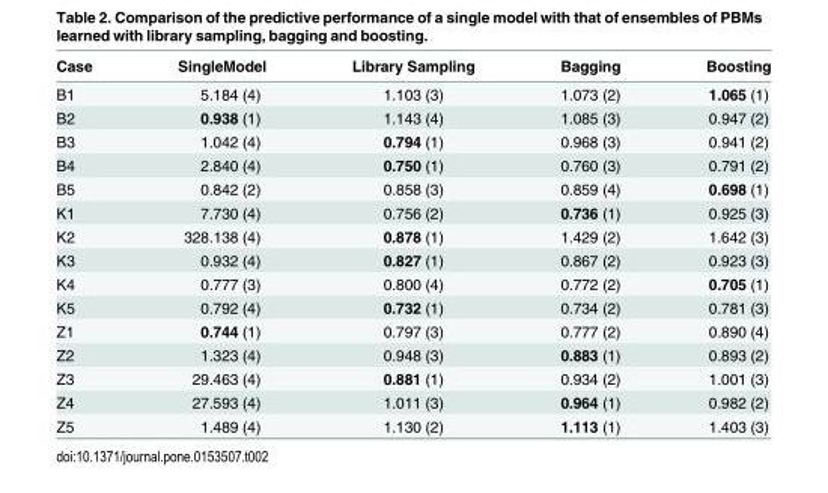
<table><thead><tr><td>Case</td><td>SingleModel</td><td>Library Sampling</td><td>Bagging</td><td>Boosting</td></tr></thead><tbody><tr><td>B1</td><td>5.184 (4)</td><td>1.103 (3)</td><td>1.073 (2)</td><td>1.065 (1)</td></tr><tr><td>B2</td><td>0.938 (1)</td><td>1.143 (4)</td><td>1.085 (3)</td><td>0.947 (2)</td></tr><tr><td>B3</td><td>1.042 (4)</td><td>0.794 (1)</td><td>0.968 (3)</td><td>0.941 (2)</td></tr><tr><td>B4</td><td>2.840 (4)</td><td>0.750 (1)</td><td>0.760 (3)</td><td>0.791 (2)</td></tr><tr><td>B5</td><td>0.842 (2)</td><td>0.858 (3)</td><td>0.859 (4)</td><td>0.698 (1)</td></tr><tr><td>K1</td><td>7.730 (4)</td><td>0.756 (2)</td><td>0.736 (1)</td><td>0.925 (3)</td></tr><tr><td>K2</td><td>328.138 (4)</td><td>0.878 (1)</td><td>1.429 (2)</td><td>1.642 (3)</td></tr><tr><td>K3</td><td>0.932 (4)</td><td>0.827 (1)</td><td>0.867 (2)</td><td>0.923 (3)</td></tr><tr><td>K4</td><td>0.777 (3)</td><td>0.800 (4)</td><td>0.772 (2)</td><td>0.705 (1)</td></tr><tr><td>K5</td><td>0.792 (4)</td><td>0.732 (1)</td><td>0.734 (2)</td><td>0.781 (3)</td></tr><tr><td>Z1</td><td>0.744 (1)</td><td>0.797 (3)</td><td>0.777 (2)</td><td>0.890 (4)</td></tr><tr><td>Z2</td><td>1.323 (4)</td><td>0.948 (3)</td><td>0.883 (1)</td><td>0.893 (2)</td></tr><tr><td>Z3</td><td>29.463 (4)</td><td>0.881 (1)</td><td>0.934 (2)</td><td>1.001 (3)</td></tr><tr><td>Z4</td><td>27.593 (4)</td><td>1.011 (3)</td><td>0.964 (1)</td><td>0.982 (2)</td></tr><tr><td>Z5</td><td>1.489 (4)</td><td>1.130 (2)</td><td>1.113 (1)</td><td>1.403 (3)</td></tr></tbody></table>